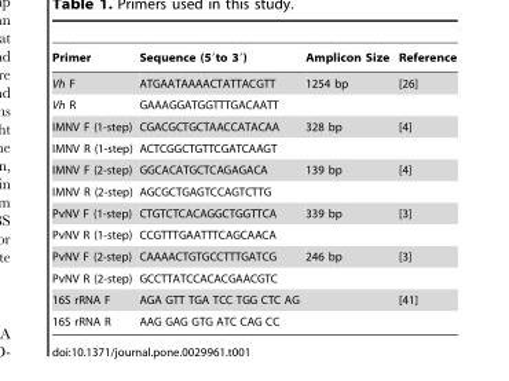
<table><thead><tr><td>Primer</td><td>Sequence (5′to 3′)</td><td>Amplicon Size</td><td>Reference</td></tr></thead><tbody><tr><td>Vh F</td><td>ATGAATAAAACTATTACGTT</td><td>1254 bp</td><td>[26]</td></tr><tr><td>Vh R</td><td>GAAAGGATGGTTTGACAATT</td><td></td><td></td></tr><tr><td>IMNV F (1-step)</td><td>CGACGCTGCTAACCATACAA</td><td>328 bp</td><td>[4]</td></tr><tr><td>IMNV R (1-step)</td><td>ACTCGGCTGTTCGATCAAGT</td><td></td><td></td></tr><tr><td>IMNV F (2-step)</td><td>GGCACATGCTCAGAGACA</td><td>139 bp</td><td>[4]</td></tr><tr><td>IMNV R (2-step)</td><td>AGCGCTGAGTCCAGTCTTG</td><td></td><td></td></tr><tr><td>PvNV F (1-step)</td><td>CTGTCTCACAGGCTGGTTCA</td><td>339 bp</td><td>[3]</td></tr><tr><td>PvNV R (1-step)</td><td>CCGTTTGAATTTCAGCAACA</td><td></td><td></td></tr><tr><td>PvNV F (2-step)</td><td>CAAAACTGTGCCTTTGATCG</td><td>246 bp</td><td>[3]</td></tr><tr><td>PvNV R (2-step)</td><td>GCCTTATCCACACGAACGTC</td><td></td><td></td></tr><tr><td>16S rRNA F</td><td>AGA GTT TGA TCC TGG CTC AG</td><td></td><td>[41]</td></tr><tr><td>16S rRNA R</td><td>AAG GAG GTG ATC CAG CC</td><td></td><td></td></tr></tbody></table>